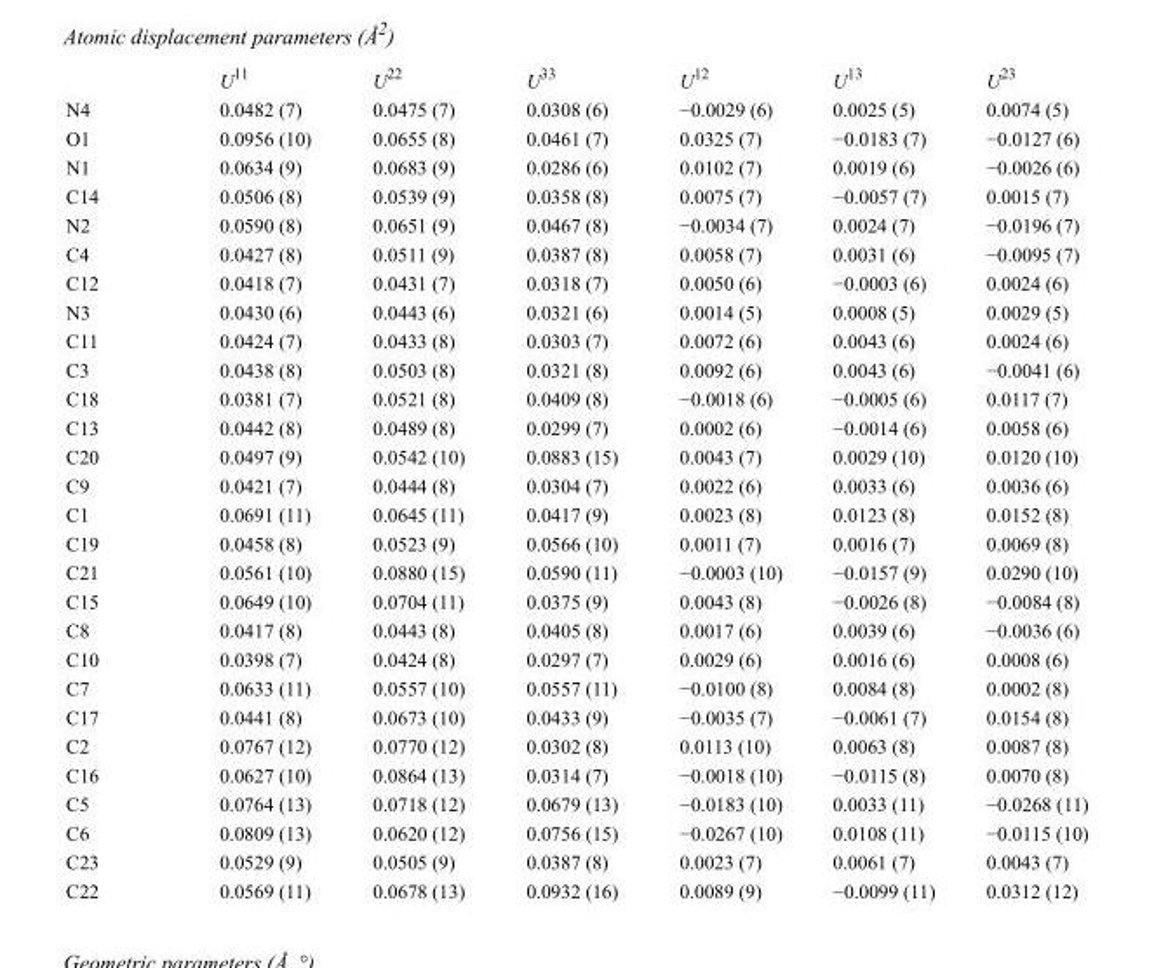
<table><thead><tr><td></td><td>U<sup>11</sup></td><td>U<sup>22</sup></td><td>U<sup>33</sup></td><td>U<sup>12</sup></td><td>U<sup>13</sup></td><td>U<sup>23</sup></td></tr></thead><tbody><tr><td>N4</td><td>0.0482 (7)</td><td>0.0475 (7)</td><td>0.0308 (6)</td><td>−0.0029 (6)</td><td>0.0025 (5)</td><td>0.0074 (5)</td></tr><tr><td>O1</td><td>0.0956 (10)</td><td>0.0655 (8)</td><td>0.0461 (7)</td><td>0.0325 (7)</td><td>−0.0183 (7)</td><td>−0.0127 (6)</td></tr><tr><td>N1</td><td>0.0634 (9)</td><td>0.0683 (9)</td><td>0.0286 (6)</td><td>0.0102 (7)</td><td>0.0019 (6)</td><td>−0.0026 (6)</td></tr><tr><td>C14</td><td>0.0506 (8)</td><td>0.0539 (9)</td><td>0.0358 (8)</td><td>0.0075 (7)</td><td>−0.0057 (7)</td><td>0.0015 (7)</td></tr><tr><td>N2</td><td>0.0590 (8)</td><td>0.0651 (9)</td><td>0.0467 (8)</td><td>−0.0034 (7)</td><td>0.0024 (7)</td><td>−0.0196 (7)</td></tr><tr><td>C4</td><td>0.0427 (8)</td><td>0.0511 (9)</td><td>0.0387 (8)</td><td>0.0058 (7)</td><td>0.0031 (6)</td><td>−0.0095 (7)</td></tr><tr><td>C12</td><td>0.0418 (7)</td><td>0.0431 (7)</td><td>0.0318 (7)</td><td>0.0050 (6)</td><td>−0.0003 (6)</td><td>0.0024 (6)</td></tr><tr><td>N3</td><td>0.0430 (6)</td><td>0.0443 (6)</td><td>0.0321 (6)</td><td>0.0014 (5)</td><td>0.0008 (5)</td><td>0.0029 (5)</td></tr><tr><td>C11</td><td>0.0424 (7)</td><td>0.0433 (8)</td><td>0.0303 (7)</td><td>0.0072 (6)</td><td>0.0043 (6)</td><td>0.0024 (6)</td></tr><tr><td>C3</td><td>0.0438 (8)</td><td>0.0503 (8)</td><td>0.0321 (8)</td><td>0.0092 (6)</td><td>0.0043 (6)</td><td>−0.0041 (6)</td></tr><tr><td>C18</td><td>0.0381 (7)</td><td>0.0521 (8)</td><td>0.0409 (8)</td><td>−0.0018 (6)</td><td>−0.0005 (6)</td><td>0.0117 (7)</td></tr><tr><td>C13</td><td>0.0442 (8)</td><td>0.0489 (8)</td><td>0.0299 (7)</td><td>0.0002 (6)</td><td>−0.0014 (6)</td><td>0.0058 (6)</td></tr><tr><td>C20</td><td>0.0497 (9)</td><td>0.0542 (10)</td><td>0.0883 (15)</td><td>0.0043 (7)</td><td>0.0029 (10)</td><td>0.0120 (10)</td></tr><tr><td>C9</td><td>0.0421 (7)</td><td>0.0444 (8)</td><td>0.0304 (7)</td><td>0.0022 (6)</td><td>0.0033 (6)</td><td>0.0036 (6)</td></tr><tr><td>C1</td><td>0.0691 (11)</td><td>0.0645 (11)</td><td>0.0417 (9)</td><td>0.0023 (8)</td><td>0.0123 (8)</td><td>0.0152 (8)</td></tr><tr><td>C19</td><td>0.0458 (8)</td><td>0.0523 (9)</td><td>0.0566 (10)</td><td>0.0011 (7)</td><td>0.0016 (7)</td><td>0.0069 (8)</td></tr><tr><td>C21</td><td>0.0561 (10)</td><td>0.0880 (15)</td><td>0.0590 (11)</td><td>−0.0003 (10)</td><td>−0.0157 (9)</td><td>0.0290 (10)</td></tr><tr><td>C15</td><td>0.0649 (10)</td><td>0.0704 (11)</td><td>0.0375 (9)</td><td>0.0043 (8)</td><td>−0.0026 (8)</td><td>−0.0084 (8)</td></tr><tr><td>C8</td><td>0.0417 (8)</td><td>0.0443 (8)</td><td>0.0405 (8)</td><td>0.0017 (6)</td><td>0.0039 (6)</td><td>−0.0036 (6)</td></tr><tr><td>C10</td><td>0.0398 (7)</td><td>0.0424 (8)</td><td>0.0297 (7)</td><td>0.0029 (6)</td><td>0.0016 (6)</td><td>0.0008 (6)</td></tr><tr><td>C7</td><td>0.0633 (11)</td><td>0.0557 (10)</td><td>0.0557 (11)</td><td>−0.0100 (8)</td><td>0.0084 (8)</td><td>0.0002 (8)</td></tr><tr><td>C17</td><td>0.0441 (8)</td><td>0.0673 (10)</td><td>0.0433 (9)</td><td>−0.0035 (7)</td><td>−0.0061 (7)</td><td>0.0154 (8)</td></tr><tr><td>C2</td><td>0.0767 (12)</td><td>0.0770 (12)</td><td>0.0302 (8)</td><td>0.0113 (10)</td><td>0.0063 (8)</td><td>0.0087 (8)</td></tr><tr><td>C16</td><td>0.0627 (10)</td><td>0.0864 (13)</td><td>0.0314 (7)</td><td>−0.0018 (10)</td><td>−0.0115 (8)</td><td>0.0070 (8)</td></tr><tr><td>C5</td><td>0.0764 (13)</td><td>0.0718 (12)</td><td>0.0679 (13)</td><td>−0.0183 (10)</td><td>0.0033 (11)</td><td>−0.0268 (11)</td></tr><tr><td>C6</td><td>0.0809 (13)</td><td>0.0620 (12)</td><td>0.0756 (15)</td><td>−0.0267 (10)</td><td>0.0108 (11)</td><td>−0.0115 (10)</td></tr><tr><td>C23</td><td>0.0529 (9)</td><td>0.0505 (9)</td><td>0.0387 (8)</td><td>0.0023 (7)</td><td>0.0061 (7)</td><td>0.0043 (7)</td></tr><tr><td>C22</td><td>0.0569 (11)</td><td>0.0678 (13)</td><td>0.0932 (16)</td><td>0.0089 (9)</td><td>−0.0099 (11)</td><td>0.0312 (12)</td></tr></tbody></table>